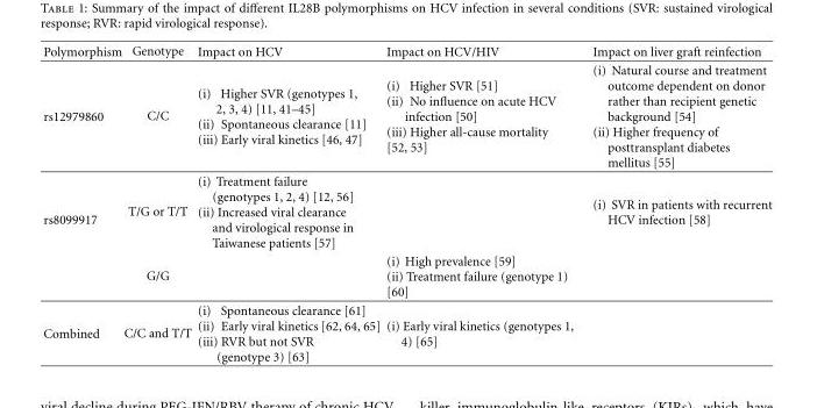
<table><thead><tr><td>Polymorphism</td><td>Genotype</td><td>Impact on HCV</td><td>Impact on HCV/HIV</td><td>Impact on liver graft reinfection</td></tr></thead><tbody><tr><td>rs12979860</td><td>C/C</td><td>(i) Higher SVR (genotypes 1, 2, 3, 4) [11, 41–45] (ii) Spontaneous clearance [11] (iii) Early viral kinetics [46, 47]</td><td>(i) Higher SVR [51] (ii) No influence on acute HCV infection [50] (iii) Higher all-cause mortality [52, 53]</td><td>(i) Natural course and treatment outcome dependent on donor rather than recipient genetic background [54] (ii) Higher frequency of posttransplant diabetes mellitus [55]</td></tr><tr><td rowspan="2">rs8099917</td><td>T/G or T/T</td><td>(i) Treatment failure (genotypes 1, 2, 4) [12, 56] (ii) Increased viral clearance and virological response in Taiwanese patients [57]</td><td></td><td>(i) SVR in patients with recurrent HCV infection [58]</td></tr><tr><td>G/G</td><td></td><td>(i) High prevalence [59] (ii) Treatment failure (genotype 1) [60]</td><td></td></tr><tr><td>Combined</td><td>C/C and T/T</td><td>(i) Spontaneous clearance [61] (ii) Early viral kinetics [62, 64, 65] (iii) RVR but not SVR (genotype 3) [63]</td><td>(i) Early viral kinetics (genotypes 1, 4) [65]</td><td></td></tr></tbody></table>